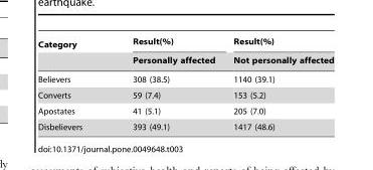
<table><thead><tr><td rowspan="2">Category</td><td rowspan="2">Result(%) Personally affected</td><td rowspan="2">Result(%) Not personally affected</td></tr><tr></tr></thead><tbody><tr><td>Believers</td><td>308 (38.5)</td><td>1140 (39.1)</td></tr><tr><td>Converts</td><td>59 (7.4)</td><td>153 (5.2)</td></tr><tr><td>Apostates</td><td>41 (5.1)</td><td>205 (7.0)</td></tr><tr><td>Disbelievers</td><td>393 (49.1)</td><td>1417 (48.6)</td></tr></tbody></table>